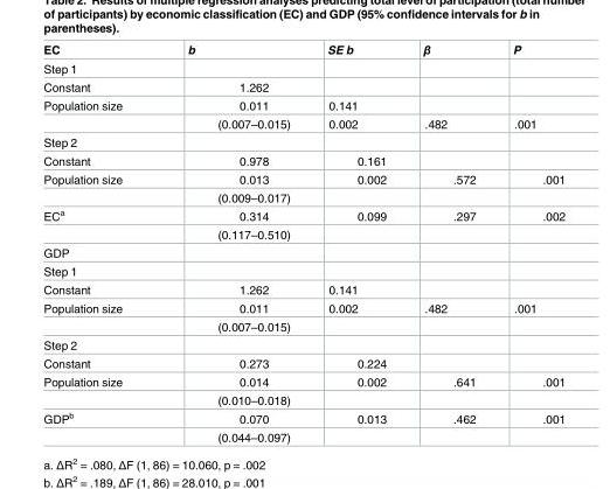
<table><thead><tr><td>EC</td><td>b</td><td>SE b</td><td>β</td><td>P</td></tr></thead><tbody><tr><td colspan="5">Step 1</td></tr><tr><td>Constant</td><td>1.262</td><td></td><td></td><td></td></tr><tr><td rowspan="2">Population size</td><td>0.011</td><td>0.141</td><td></td><td></td></tr><tr><td>(0.007–0.015)</td><td>0.002</td><td>.482</td><td>.001</td></tr><tr><td colspan="5">Step 2</td></tr><tr><td>Constant</td><td>0.978</td><td>0.161</td><td></td><td></td></tr><tr><td rowspan="2">Population size</td><td>0.013</td><td>0.002</td><td>.572</td><td>.001</td></tr><tr><td>(0.009–0.017)</td><td></td><td></td><td></td></tr><tr><td rowspan="2">EC<sup>a</sup></td><td>0.314</td><td>0.099</td><td>.297</td><td>.002</td></tr><tr><td>(0.117–0.510)</td><td></td><td></td><td></td></tr><tr><td colspan="5">GDP</td></tr><tr><td colspan="5">Step 1</td></tr><tr><td>Constant</td><td>1.262</td><td>0.141</td><td></td><td></td></tr><tr><td rowspan="2">Population size</td><td>0.011</td><td>0.002</td><td>.482</td><td>.001</td></tr><tr><td>(0.007–0.015)</td><td></td><td></td><td></td></tr><tr><td colspan="5">Step 2</td></tr><tr><td>Constant</td><td>0.273</td><td>0.224</td><td></td><td></td></tr><tr><td rowspan="2">Population size</td><td>0.014</td><td>0.002</td><td>.641</td><td>.001</td></tr><tr><td>(0.010–0.018)</td><td></td><td></td><td></td></tr><tr><td rowspan="2">GDP<sup>b</sup></td><td>0.070</td><td>0.013</td><td>.462</td><td>.001</td></tr><tr><td>(0.044–0.097)</td><td></td><td></td><td></td></tr></tbody></table>